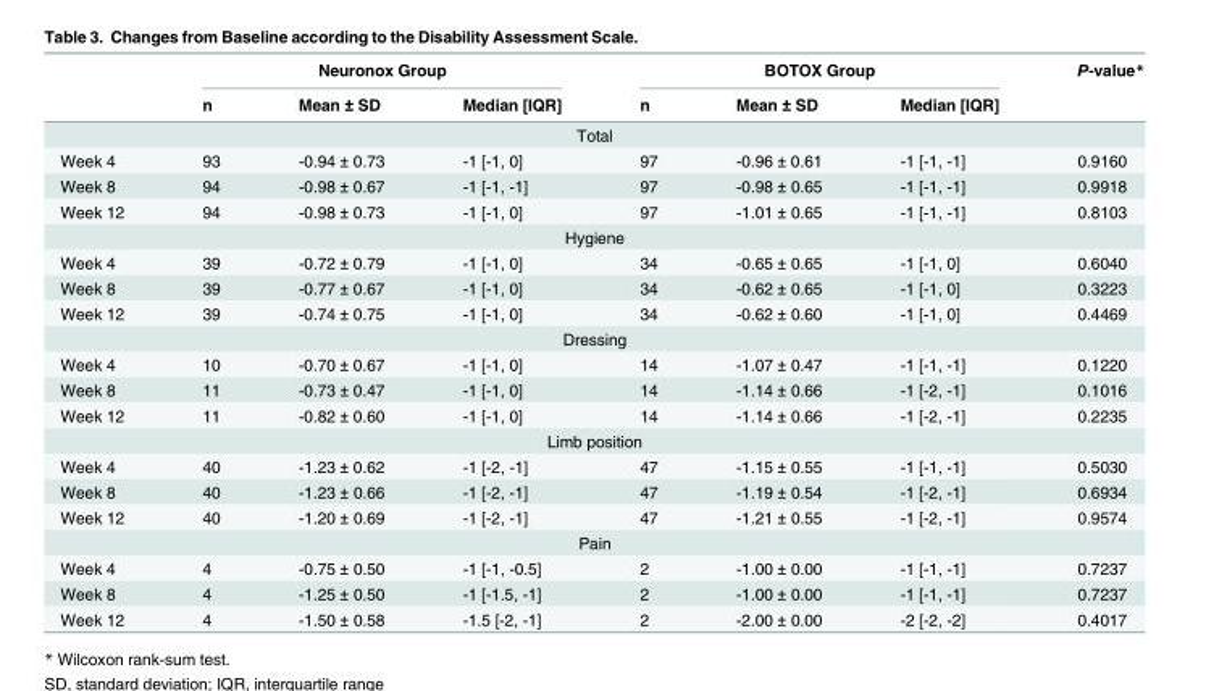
<table><thead><tr><td rowspan="2"></td><td colspan="3">Neuronox Group</td><td colspan="3">BOTOX Group</td><td rowspan="2">P-value*</td></tr><tr><td>n</td><td>Mean ± SD</td><td>Median [IQR]</td><td>n</td><td>Mean ± SD</td><td>Median [IQR]</td></tr></thead><tbody><tr><td colspan="8">Total</td></tr><tr><td>Week 4</td><td>93</td><td>-0.94 ± 0.73</td><td>-1 [-1, 0]</td><td>97</td><td>-0.96 ± 0.61</td><td>-1 [-1, -1]</td><td>0.9160</td></tr><tr><td>Week 8</td><td>94</td><td>-0.98 ± 0.67</td><td>-1 [-1, -1]</td><td>97</td><td>-0.98 ± 0.65</td><td>-1 [-1, -1]</td><td>0.9918</td></tr><tr><td>Week 12</td><td>94</td><td>-0.98 ± 0.73</td><td>-1 [-1, 0]</td><td>97</td><td>-1.01 ± 0.65</td><td>-1 [-1, -1]</td><td>0.8103</td></tr><tr><td colspan="8">Hygiene</td></tr><tr><td>Week 4</td><td>39</td><td>-0.72 ± 0.79</td><td>-1 [-1, 0]</td><td>34</td><td>-0.65 ± 0.65</td><td>-1 [-1, 0]</td><td>0.6040</td></tr><tr><td>Week 8</td><td>39</td><td>-0.77 ± 0.67</td><td>-1 [-1, 0]</td><td>34</td><td>-0.62 ± 0.65</td><td>-1 [-1, 0]</td><td>0.3223</td></tr><tr><td>Week 12</td><td>39</td><td>-0.74 ± 0.75</td><td>-1 [-1, 0]</td><td>34</td><td>-0.62 ± 0.60</td><td>-1 [-1, 0]</td><td>0.4469</td></tr><tr><td colspan="8">Dressing</td></tr><tr><td>Week 4</td><td>10</td><td>-0.70 ± 0.67</td><td>-1 [-1, 0]</td><td>14</td><td>-1.07 ± 0.47</td><td>-1 [-1, -1]</td><td>0.1220</td></tr><tr><td>Week 8</td><td>11</td><td>-0.73 ± 0.47</td><td>-1 [-1, 0]</td><td>14</td><td>-1.14 ± 0.66</td><td>-1 [-2, -1]</td><td>0.1016</td></tr><tr><td>Week 12</td><td>11</td><td>-0.82 ± 0.60</td><td>-1 [-1, 0]</td><td>14</td><td>-1.14 ± 0.66</td><td>-1 [-2, -1]</td><td>0.2235</td></tr><tr><td colspan="8">Limb position</td></tr><tr><td>Week 4</td><td>40</td><td>-1.23 ± 0.62</td><td>-1 [-2, -1]</td><td>47</td><td>-1.15 ± 0.55</td><td>-1 [-1, -1]</td><td>0.5030</td></tr><tr><td>Week 8</td><td>40</td><td>-1.23 ± 0.66</td><td>-1 [-2, -1]</td><td>47</td><td>-1.19 ± 0.54</td><td>-1 [-2, -1]</td><td>0.6934</td></tr><tr><td>Week 12</td><td>40</td><td>-1.20 ± 0.69</td><td>-1 [-2, -1]</td><td>47</td><td>-1.21 ± 0.55</td><td>-1 [-2, -1]</td><td>0.9574</td></tr><tr><td colspan="8">Pain</td></tr><tr><td>Week 4</td><td>4</td><td>-0.75 ± 0.50</td><td>-1 [-1, -0.5]</td><td>2</td><td>-1.00 ± 0.00</td><td>-1 [-1, -1]</td><td>0.7237</td></tr><tr><td>Week 8</td><td>4</td><td>-1.25 ± 0.50</td><td>-1 [-1.5, -1]</td><td>2</td><td>-1.00 ± 0.00</td><td>-1 [-1, -1]</td><td>0.7237</td></tr><tr><td>Week 12</td><td>4</td><td>-1.50 ± 0.58</td><td>-1.5 [-2, -1]</td><td>2</td><td>-2.00 ± 0.00</td><td>-2 [-2, -2]</td><td>0.4017</td></tr></tbody></table>